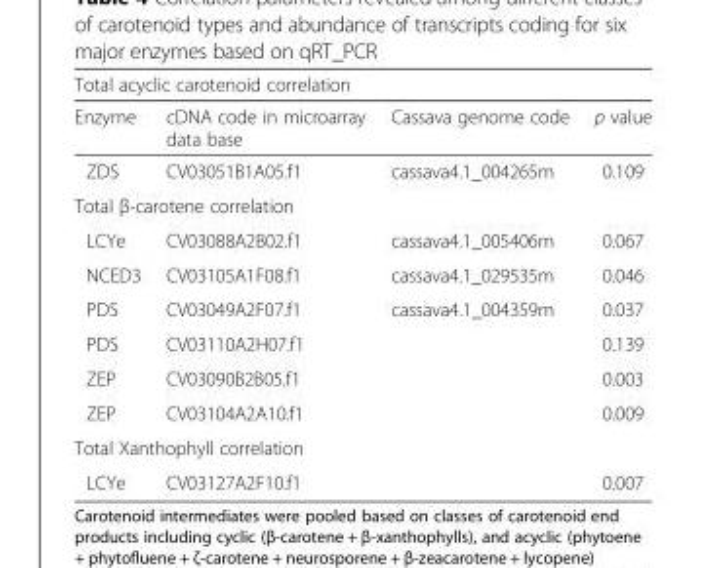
<table><thead><tr><td colspan="4">Total acyclic carotenoid correlation</td></tr><tr><td>Enzyme</td><td>cDNA code in microarray data base</td><td>Cassava genome code</td><td>p value</td></tr></thead><tbody><tr><td>ZDS</td><td>CV03051B1A05.f1</td><td>cassava4.1_004265m</td><td>0.109</td></tr><tr><td colspan="4">Total β-carotene correlation</td></tr><tr><td>LCYe</td><td>CV03088A2B02.f1</td><td>cassava4.1_005406m</td><td>0.067</td></tr><tr><td>NCED3</td><td>CV03105A1F08.f1</td><td>cassava4.1_029535m</td><td>0.046</td></tr><tr><td>PDS</td><td>CV03049A2F07.f1</td><td>cassava4.1_004359m</td><td>0.037</td></tr><tr><td>PDS</td><td>CV03110A2H07.f1</td><td></td><td>0.139</td></tr><tr><td>ZEP</td><td>CV03090B2B05.f1</td><td></td><td>0.003</td></tr><tr><td>ZEP</td><td>CV03104A2A10.f1</td><td></td><td>0.009</td></tr><tr><td colspan="4">Total Xanthophyll correlation</td></tr><tr><td>LCYe</td><td>CV03127A2F10.f1</td><td></td><td>0.007</td></tr></tbody></table>